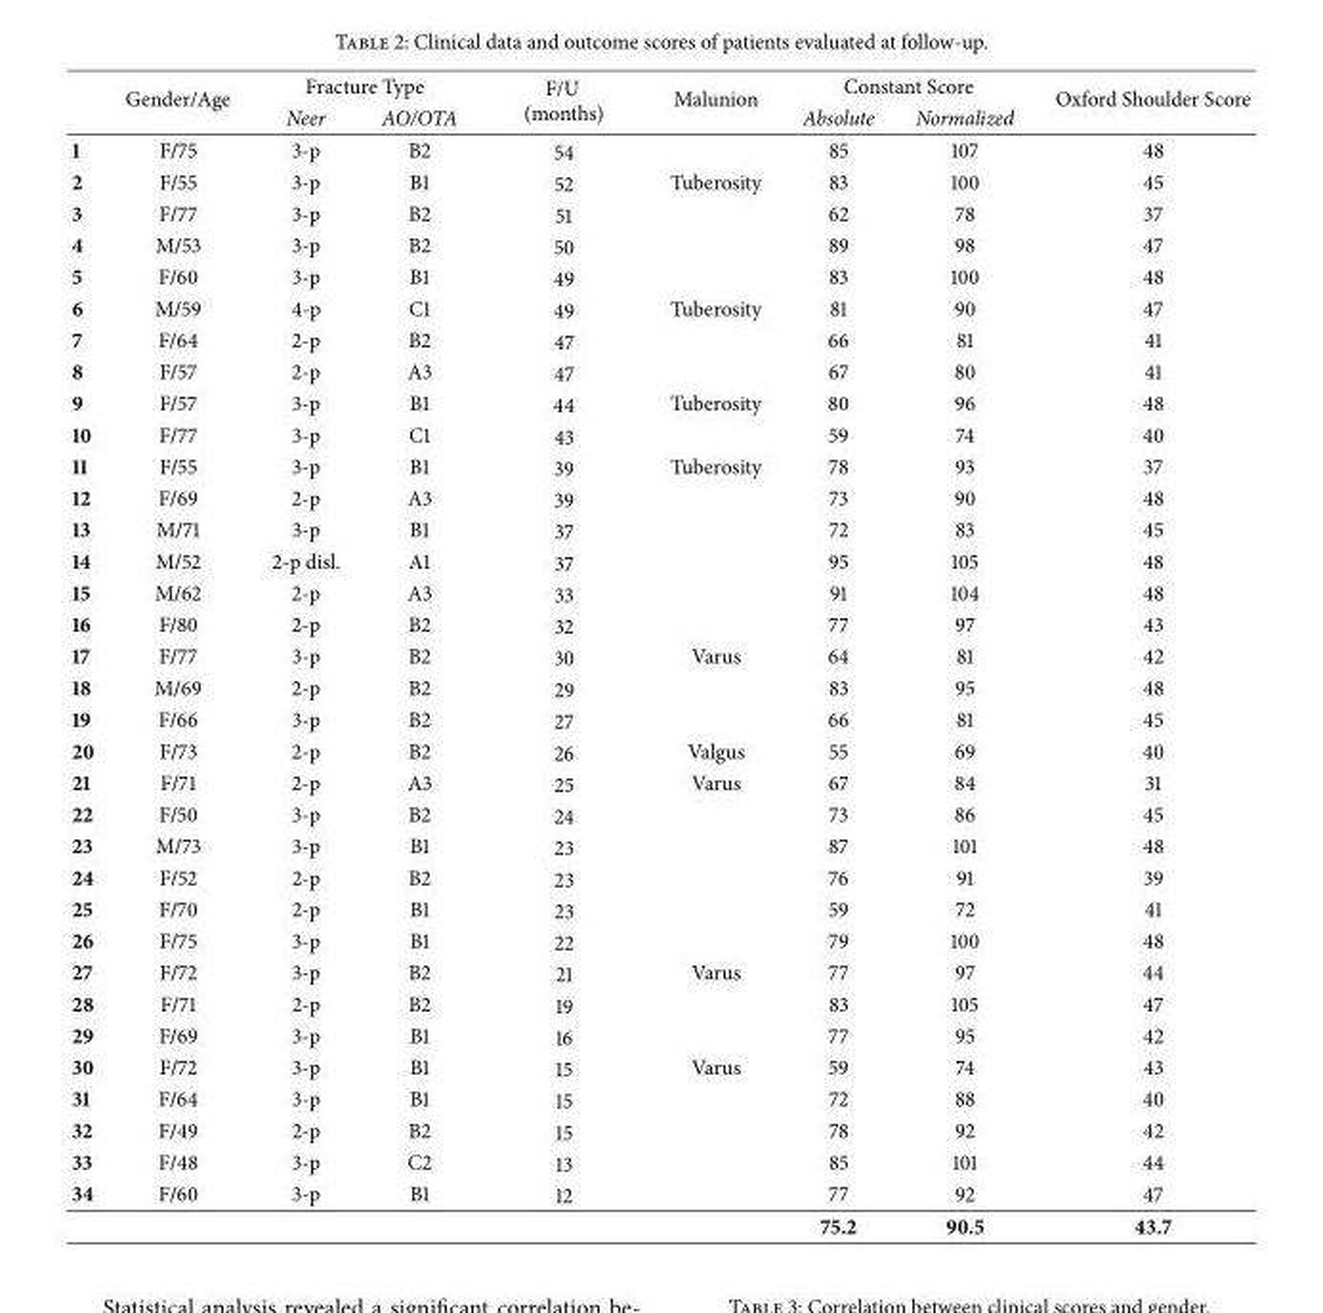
<table><thead><tr><td rowspan="2"></td><td rowspan="2">Gender/Age</td><td colspan="2">Fracture Type</td><td rowspan="2">F/U (months)</td><td rowspan="2">Malunion</td><td colspan="2">Constant Score</td><td rowspan="2">Oxford Shoulder Score</td></tr><tr><td>Neer</td><td>AO/OTA</td><td>Absolute</td><td>Normalized</td></tr></thead><tbody><tr><td>1</td><td>F/75</td><td>3-p</td><td>B2</td><td>54</td><td></td><td>85</td><td>107</td><td>48</td></tr><tr><td>2</td><td>F/55</td><td>3-p</td><td>B1</td><td>52</td><td>Tuberosity</td><td>83</td><td>100</td><td>45</td></tr><tr><td>3</td><td>F/77</td><td>3-p</td><td>B2</td><td>51</td><td></td><td>62</td><td>78</td><td>37</td></tr><tr><td>4</td><td>M/53</td><td>3-p</td><td>B2</td><td>50</td><td></td><td>89</td><td>98</td><td>47</td></tr><tr><td>5</td><td>F/60</td><td>3-p</td><td>B1</td><td>49</td><td></td><td>83</td><td>100</td><td>48</td></tr><tr><td>6</td><td>M/59</td><td>4-p</td><td>C1</td><td>49</td><td>Tuberosity</td><td>81</td><td>90</td><td>47</td></tr><tr><td>7</td><td>F/64</td><td>2-p</td><td>B2</td><td>47</td><td></td><td>66</td><td>81</td><td>41</td></tr><tr><td>8</td><td>F/57</td><td>2-p</td><td>A3</td><td>47</td><td></td><td>67</td><td>80</td><td>41</td></tr><tr><td>9</td><td>F/57</td><td>3-p</td><td>B1</td><td>44</td><td>Tuberosity</td><td>80</td><td>96</td><td>48</td></tr><tr><td>10</td><td>F/77</td><td>3-p</td><td>C1</td><td>43</td><td></td><td>59</td><td>74</td><td>40</td></tr><tr><td>11</td><td>F/55</td><td>3-p</td><td>B1</td><td>39</td><td>Tuberosity</td><td>78</td><td>93</td><td>37</td></tr><tr><td>12</td><td>F/69</td><td>2-p</td><td>A3</td><td>39</td><td></td><td>73</td><td>90</td><td>48</td></tr><tr><td>13</td><td>M/71</td><td>3-p</td><td>B1</td><td>37</td><td></td><td>72</td><td>83</td><td>45</td></tr><tr><td>14</td><td>M/52</td><td>2-p disl.</td><td>A1</td><td>37</td><td></td><td>95</td><td>105</td><td>48</td></tr><tr><td>15</td><td>M/62</td><td>2-p</td><td>A3</td><td>33</td><td></td><td>91</td><td>104</td><td>48</td></tr><tr><td>16</td><td>F/80</td><td>2-p</td><td>B2</td><td>32</td><td></td><td>77</td><td>97</td><td>43</td></tr><tr><td>17</td><td>F/77</td><td>3-p</td><td>B2</td><td>30</td><td>Varus</td><td>64</td><td>81</td><td>42</td></tr><tr><td>18</td><td>M/69</td><td>2-p</td><td>B2</td><td>29</td><td></td><td>83</td><td>95</td><td>48</td></tr><tr><td>19</td><td>F/66</td><td>3-p</td><td>B2</td><td>27</td><td></td><td>66</td><td>81</td><td>45</td></tr><tr><td>20</td><td>F/73</td><td>2-p</td><td>B2</td><td>26</td><td>Valgus</td><td>55</td><td>69</td><td>40</td></tr><tr><td>21</td><td>F/71</td><td>2-p</td><td>A3</td><td>25</td><td>Varus</td><td>67</td><td>84</td><td>31</td></tr><tr><td>22</td><td>F/50</td><td>3-p</td><td>B2</td><td>24</td><td></td><td>73</td><td>86</td><td>45</td></tr><tr><td>23</td><td>M/73</td><td>3-p</td><td>B1</td><td>23</td><td></td><td>87</td><td>101</td><td>48</td></tr><tr><td>24</td><td>F/52</td><td>2-p</td><td>B2</td><td>23</td><td></td><td>76</td><td>91</td><td>39</td></tr><tr><td>25</td><td>F/70</td><td>2-p</td><td>B1</td><td>23</td><td></td><td>59</td><td>72</td><td>41</td></tr><tr><td>26</td><td>F/75</td><td>3-p</td><td>B1</td><td>22</td><td></td><td>79</td><td>100</td><td>48</td></tr><tr><td>27</td><td>F/72</td><td>3-p</td><td>B2</td><td>21</td><td>Varus</td><td>77</td><td>97</td><td>44</td></tr><tr><td>28</td><td>F/71</td><td>2-p</td><td>B2</td><td>19</td><td></td><td>83</td><td>105</td><td>47</td></tr><tr><td>29</td><td>F/69</td><td>3-p</td><td>B1</td><td>16</td><td></td><td>77</td><td>95</td><td>42</td></tr><tr><td>30</td><td>F/72</td><td>3-p</td><td>B1</td><td>15</td><td>Varus</td><td>59</td><td>74</td><td>43</td></tr><tr><td>31</td><td>F/64</td><td>3-p</td><td>B1</td><td>15</td><td></td><td>72</td><td>88</td><td>40</td></tr><tr><td>32</td><td>F/49</td><td>2-p</td><td>B2</td><td>15</td><td></td><td>78</td><td>92</td><td>42</td></tr><tr><td>33</td><td>F/48</td><td>3-p</td><td>C2</td><td>13</td><td></td><td>85</td><td>101</td><td>44</td></tr><tr><td rowspan="2">34</td><td>F/60</td><td>3-p</td><td>B1</td><td>12</td><td></td><td>77</td><td>92</td><td>47</td></tr><tr><td></td><td></td><td></td><td></td><td></td><td>75.2</td><td>90.5</td><td>43.7</td></tr></tbody></table>